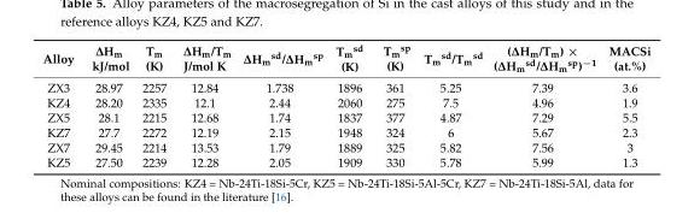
<table><thead><tr><td>Alloy</td><td>∆Hm kJ/mol</td><td>T<sub>m</sub> (K)</td><td>∆Hm/Tm J/mol K</td><td>∆Hmsd/∆Hmsp</td><td>T<sub>m</sub><sup>sd</sup> (K)</td><td>T<sub>m</sub><sup>sp</sup> (K)</td><td>T<sub>m</sub><sup>sd</sup>/T<sub>m</sub><sup>sd</sup></td><td>(∆Hm/Tm) × (∆Hmsd/∆Hmsp)−1</td><td>MACSi (at.%)</td></tr></thead><tbody><tr><td>ZX3</td><td>28.97</td><td>2257</td><td>12.84</td><td>1.738</td><td>1896</td><td>361</td><td>5.25</td><td>7.39</td><td>3.6</td></tr><tr><td>KZ4</td><td>28.20</td><td>2335</td><td>12.1</td><td>2.44</td><td>2060</td><td>275</td><td>7.5</td><td>4.96</td><td>1.9</td></tr><tr><td>ZX5</td><td>28.1</td><td>2215</td><td>12.68</td><td>1.74</td><td>1837</td><td>377</td><td>4.87</td><td>7.29</td><td>5.5</td></tr><tr><td>KZ7</td><td>27.7</td><td>2272</td><td>12.19</td><td>2.15</td><td>1948</td><td>324</td><td>6</td><td>5.67</td><td>2.3</td></tr><tr><td>ZX7</td><td>29.45</td><td>2214</td><td>13.53</td><td>1.79</td><td>1889</td><td>325</td><td>5.82</td><td>7.56</td><td>3</td></tr><tr><td>KZ5</td><td>27.50</td><td>2239</td><td>12.28</td><td>2.05</td><td>1909</td><td>330</td><td>5.78</td><td>5.99</td><td>1.3</td></tr></tbody></table>